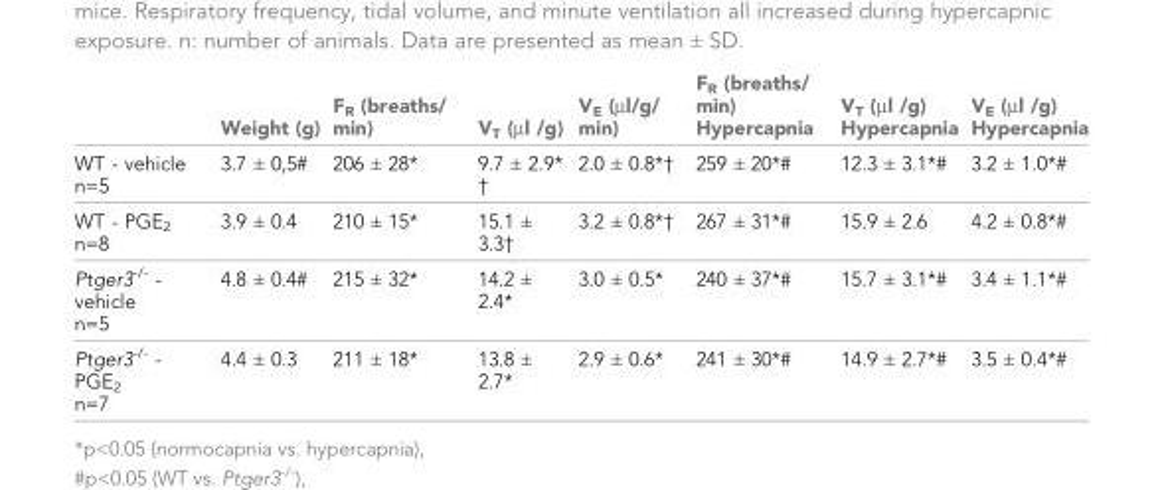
<table><thead><tr><td></td><td>Weight (g)</td><td>F<sub>R</sub> (breaths/ min)</td><td>V<sub>T</sub> (µl /g)</td><td>V<sub>E</sub> (µl/g/ min)</td><td>F<sub>R</sub> (breaths/ min) Hypercapnia</td><td>V<sub>T</sub> (µl /g) Hypercapnia</td><td>V<sub>E</sub> (µl /g) Hypercapnia</td></tr></thead><tbody><tr><td>WT - vehicle n=5</td><td>3.7 ± 0,5#</td><td>206 ± 28*</td><td>9.7 ± 2.9* †</td><td>2.0 ± 0.8*†</td><td>259 ± 20*#</td><td>12.3 ± 3.1*#</td><td>3.2 ± 1.0*#</td></tr><tr><td>WT - PGE<sub>2</sub> n=8</td><td>3.9 ± 0.4</td><td>210 ± 15*</td><td>15.1 ± 3.3†</td><td>3.2 ± 0.8*†</td><td>267 ± 31*#</td><td>15.9 ± 2.6</td><td>4.2 ± 0.8*#</td></tr><tr><td>Ptger3<sup>-/-</sup> - vehicle n=5</td><td>4.8 ± 0.4#</td><td>215 ± 32*</td><td>14.2 ± 2.4*</td><td>3.0 ± 0.5*</td><td>240 ± 37*#</td><td>15.7 ± 3.1*#</td><td>3.4 ± 1.1*#</td></tr><tr><td>Ptger3<sup>-/-</sup> - PGE<sub>2</sub> n=7</td><td>4.4 ± 0.3</td><td>211 ± 18*</td><td>13.8 ± 2.7*</td><td>2.9 ± 0.6*</td><td>241 ± 30*#</td><td>14.9 ± 2.7*#</td><td>3.5 ± 0.4*#</td></tr></tbody></table>